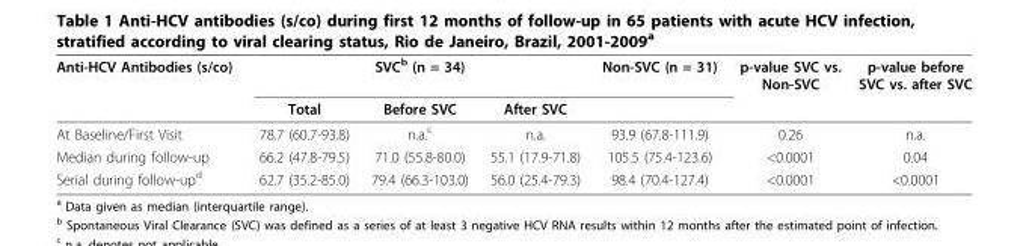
<table><thead><tr><td rowspan="2">Anti-HCV Antibodies (s/co)</td><td colspan="3">SVC<sup>b</sup> (n = 34)</td><td rowspan="2">Non-SVC (n = 31)</td><td rowspan="2">p-value SVC vs. Non-SVC</td><td rowspan="2">p-value before SVC vs. after SVC</td></tr><tr><td>Total</td><td>Before SVC</td><td>After SVC</td></tr></thead><tbody><tr><td>At Baseline/First Visit</td><td>78.7 (60.7-93.8)</td><td>n.a.<sup>c</sup></td><td>n.a.</td><td>93.9 (67.8-111.9)</td><td>0.26</td><td>n.a.</td></tr><tr><td>Median during follow-up</td><td>66.2 (47.8-79.5)</td><td>71.0 (55.8-80.0)</td><td>55.1 (17.9-71.8)</td><td>105.5 (75.4-123.6)</td><td>&lt;0.0001</td><td>0.04</td></tr><tr><td>Serial during follow-up<sup>d</sup></td><td>62.7 (35.2-85.0)</td><td>79.4 (66.3-103.0)</td><td>56.0 (25.4-79.3)</td><td>98.4 (70.4-127.4)</td><td>&lt;0.0001</td><td>&lt;0.0001</td></tr></tbody></table>